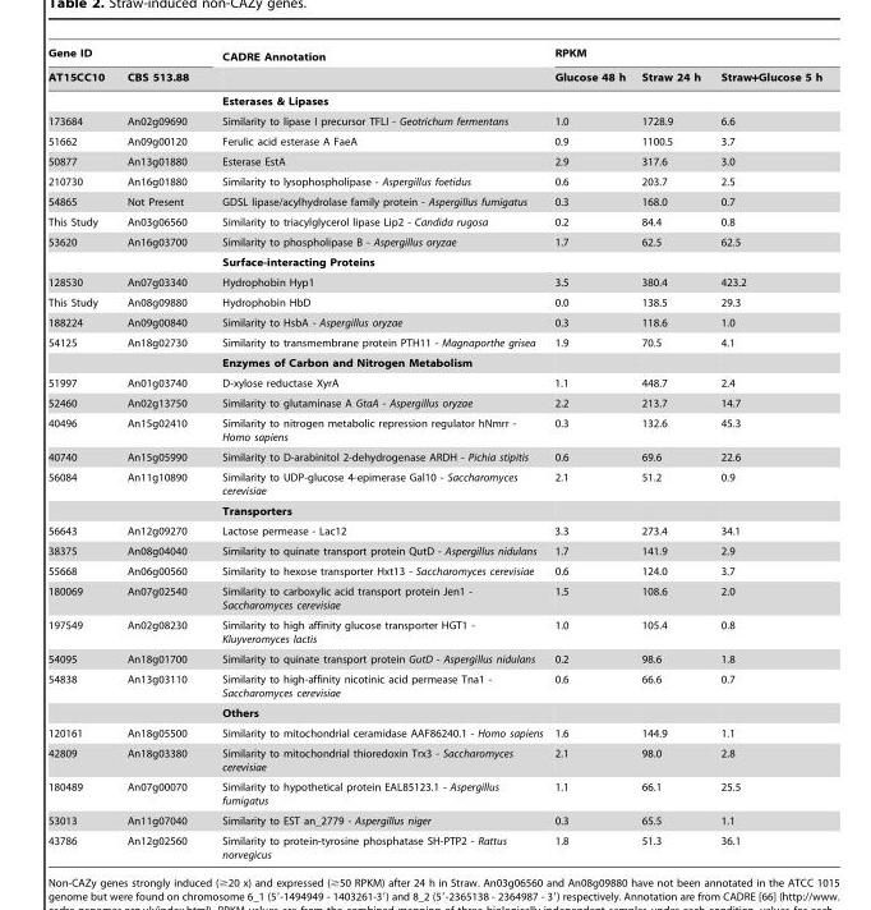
<table><thead><tr><td colspan="2">Gene ID</td><td rowspan="2">CADRE Annotation</td><td colspan="3">RPKM</td></tr><tr><td>AT15CC10</td><td>CBS 513.88</td><td>Glucose 48 h</td><td>Straw 24 h</td><td>Straw+Glucose 5 h</td></tr></thead><tbody><tr><td></td><td></td><td>Esterases &amp; Lipases</td><td></td><td></td><td></td></tr><tr><td>173684</td><td>An02g09690</td><td>Similarity to lipase I precursor TFLI - Geotrichum fermentans</td><td>1.0</td><td>1728.9</td><td>6.6</td></tr><tr><td>51662</td><td>An09g00120</td><td>Ferulic acid esterase A FaeA</td><td>0.9</td><td>1100.5</td><td>3.7</td></tr><tr><td>50877</td><td>An13g01880</td><td>Esterase EstA</td><td>2.9</td><td>317.6</td><td>3.0</td></tr><tr><td>210730</td><td>An16g01880</td><td>Similarity to lysophospholipase - Aspergillus foetidus</td><td>0.6</td><td>203.7</td><td>2.5</td></tr><tr><td>54865</td><td>Not Present</td><td>GDSL lipase/acylhydrolase family protein - Aspergillus fumigatus</td><td>0.3</td><td>168.0</td><td>0.7</td></tr><tr><td>This Study</td><td>An03g06560</td><td>Similarity to triacylglycerol lipase Lip2 - Candida rugosa</td><td>0.2</td><td>84.4</td><td>0.8</td></tr><tr><td rowspan="2">53620</td><td>An16g03700</td><td>Similarity to phospholipase B - Aspergillus oryzae</td><td>1.7</td><td>62.5</td><td>62.5</td></tr><tr><td></td><td>Surface-interacting Proteins</td><td></td><td></td><td></td></tr><tr><td>128530</td><td>An07g03340</td><td>Hydrophobin Hyp1</td><td>3.5</td><td>380.4</td><td>423.2</td></tr><tr><td>This Study</td><td>An08g09880</td><td>Hydrophobin HbD</td><td>0.0</td><td>138.5</td><td>29.3</td></tr><tr><td>188224</td><td>An09g00840</td><td>Similarity to HsbA - Aspergillus oryzae</td><td>0.3</td><td>118.6</td><td>1.0</td></tr><tr><td rowspan="2">54125</td><td>An18g02730</td><td>Similarity to transmembrane protein PTH11 - Magnaporthe grisea</td><td>1.9</td><td>70.5</td><td>4.1</td></tr><tr><td></td><td>Enzymes of Carbon and Nitrogen Metabolism</td><td></td><td></td><td></td></tr><tr><td>51997</td><td>An01g03740</td><td>D-xylose reductase XyrA</td><td>1.1</td><td>448.7</td><td>2.4</td></tr><tr><td>52460</td><td>An02g13750</td><td>Similarity to glutaminase A GtaA - Aspergillus oryzae</td><td>2.2</td><td>213.7</td><td>14.7</td></tr><tr><td>40496</td><td>An15g02410</td><td>Similarity to nitrogen metabolic repression regulator hNmrr - Homo sapiens</td><td>0.3</td><td>132.6</td><td>45.3</td></tr><tr><td>40740</td><td>An15g05990</td><td>Similarity to D-arabinitol 2-dehydrogenase ARDH - Pichia stipitis</td><td>0.6</td><td>69.6</td><td>22.6</td></tr><tr><td rowspan="2">56084</td><td>An11g10890</td><td>Similarity to UDP-glucose 4-epimerase Gal10 - Saccharomyces cerevisiae</td><td>2.1</td><td>51.2</td><td>0.9</td></tr><tr><td></td><td>Transporters</td><td></td><td></td><td></td></tr><tr><td>56643</td><td>An12g09270</td><td>Lactose permease - Lac12</td><td>3.3</td><td>273.4</td><td>34.1</td></tr><tr><td>38375</td><td>An08g04040</td><td>Similarity to quinate transport protein QutD - Aspergillus nidulans</td><td>1.7</td><td>141.9</td><td>2.9</td></tr><tr><td>55668</td><td>An06g00560</td><td>Similarity to hexose transporter Hxt13 - Saccharomyces cerevisiae</td><td>0.6</td><td>124.0</td><td>3.7</td></tr><tr><td>180069</td><td>An07g02540</td><td>Similarity to carboxylic acid transport protein Jen1 - Saccharomyces cerevisiae</td><td>1.5</td><td>108.6</td><td>2.0</td></tr><tr><td>197549</td><td>An02g08230</td><td>Similarity to high affinity glucose transporter HGT1 - Kluyveromyces lactis</td><td>1.0</td><td>105.4</td><td>0.8</td></tr><tr><td>54095</td><td>An18g01700</td><td>Similarity to quinate transport protein GutD - Aspergillus nidulans</td><td>0.2</td><td>98.6</td><td>1.8</td></tr><tr><td rowspan="2">54838</td><td>An13g03110</td><td>Similarity to high-affinity nicotinic acid permease Tna1 - Saccharomyces cerevisiae</td><td>0.6</td><td>66.6</td><td>0.7</td></tr><tr><td></td><td>Others</td><td></td><td></td><td></td></tr><tr><td>120161</td><td>An18g05500</td><td>Similarity to mitochondrial ceramidase AAF86240.1 - Homo sapiens</td><td>1.6</td><td>144.9</td><td>1.1</td></tr><tr><td>42809</td><td>An18g03380</td><td>Similarity to mitochondrial thioredoxin Trx3 - Saccharomyces cerevisiae</td><td>2.1</td><td>98.0</td><td>2.8</td></tr><tr><td>180489</td><td>An07g00070</td><td>Similarity to hypothetical protein EAL85123.1 - Aspergillus fumigatus</td><td>1.1</td><td>66.1</td><td>25.5</td></tr><tr><td>53013</td><td>An11g07040</td><td>Similarity to EST an_2779 - Aspergillus niger</td><td>0.3</td><td>65.5</td><td>1.1</td></tr><tr><td>43786</td><td>An12g02560</td><td>Similarity to protein-tyrosine phosphatase SH-PTP2 - Rattus norvegicus</td><td>1.8</td><td>51.3</td><td>36.1</td></tr></tbody></table>